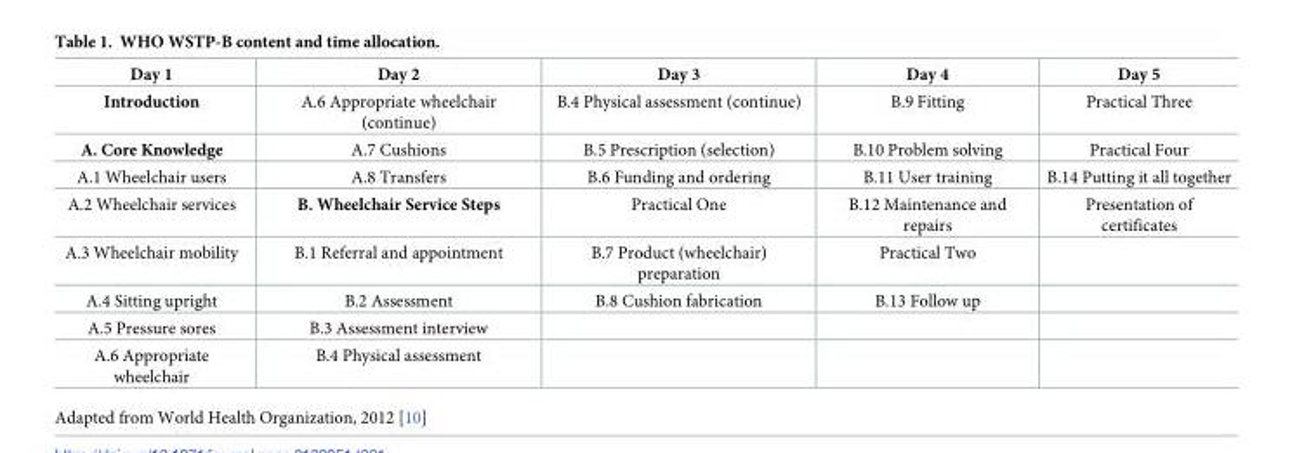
<table><thead><tr><td>Day 1</td><td>Day 2</td><td>Day 3</td><td>Day 4</td><td>Day 5</td></tr></thead><tbody><tr><td>Introduction</td><td>A.6 Appropriate wheelchair (continue)</td><td>B.4 Physical assessment (continue)</td><td>B.9 Fitting</td><td>Practical Three</td></tr><tr><td>A. Core Knowledge</td><td>A.7 Cushions</td><td>B.5 Prescription (selection)</td><td>B.10 Problem solving</td><td>Practical Four</td></tr><tr><td>A.1 Wheelchair users</td><td>A.8 Transfers</td><td>B.6 Funding and ordering</td><td>B.11 User training</td><td>B.14 Putting it all together</td></tr><tr><td>A.2 Wheelchair services</td><td>B. Wheelchair Service Steps</td><td>Practical One</td><td>B.12 Maintenance and repairs</td><td>Presentation of certificates</td></tr><tr><td>A.3 Wheelchair mobility</td><td>B.1 Referral and appointment</td><td>B.7 Product (wheelchair) preparation</td><td>Practical Two</td><td></td></tr><tr><td>A.4 Sitting upright</td><td>B.2 Assessment</td><td>B.8 Cushion fabrication</td><td>B.13 Follow up</td><td></td></tr><tr><td>A.5 Pressure sores</td><td>B.3 Assessment interview</td><td></td><td></td><td></td></tr><tr><td>A.6 Appropriate wheelchair</td><td>B.4 Physical assessment</td><td></td><td></td><td></td></tr></tbody></table>